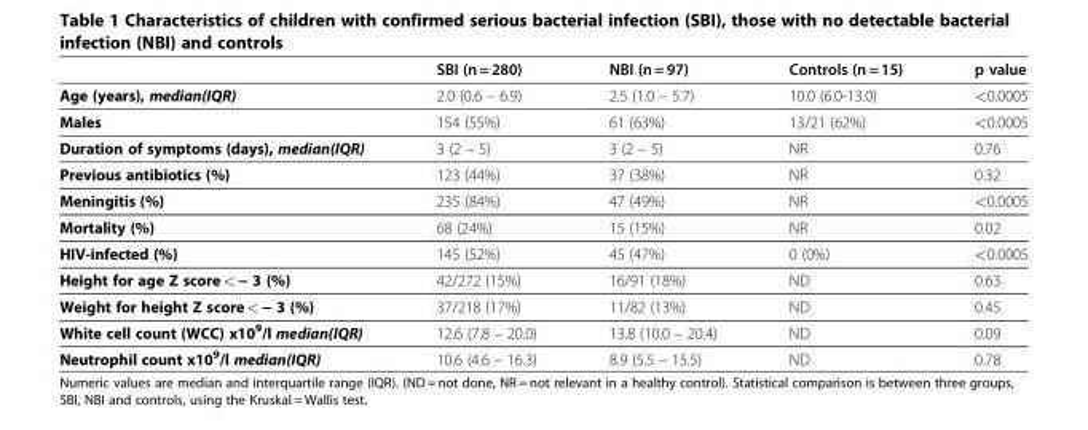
<table><thead><tr><td></td><td>SBI (n = 280)</td><td>NBI (n = 97)</td><td>Controls (n = 15)</td><td>p value</td></tr></thead><tbody><tr><td>Age (years), median(IQR)</td><td>2.0 (0.6 – 6.9)</td><td>2.5 (1.0 – 5.7)</td><td>10.0 (6.0-13.0)</td><td>&lt;0.0005</td></tr><tr><td>Males</td><td>154 (55%)</td><td>61 (63%)</td><td>13/21 (62%)</td><td>&lt;0.0005</td></tr><tr><td>Duration of symptoms (days), median(IQR)</td><td>3 (2 – 5)</td><td>3 (2 – 5)</td><td>NR</td><td>0.76</td></tr><tr><td>Previous antibiotics (%)</td><td>123 (44%)</td><td>37 (38%)</td><td>NR</td><td>0.32</td></tr><tr><td>Meningitis (%)</td><td>235 (84%)</td><td>47 (49%)</td><td>NR</td><td>&lt;0.0005</td></tr><tr><td>Mortality (%)</td><td>68 (24%)</td><td>15 (15%)</td><td>NR</td><td>0.02</td></tr><tr><td>HIV-infected (%)</td><td>145 (52%)</td><td>45 (47%)</td><td>0 (0%)</td><td>&lt;0.0005</td></tr><tr><td>Height for age Z score &lt; − 3 (%)</td><td>42/272 (15%)</td><td>16/91 (18%)</td><td>ND</td><td>0.63</td></tr><tr><td>Weight for height Z score &lt; − 3 (%)</td><td>37/218 (17%)</td><td>11/82 (13%)</td><td>ND</td><td>0.45</td></tr><tr><td>White cell count (WCC) x10<sup>9</sup>/l median(IQR)</td><td>12.6 (7.8 – 20.0)</td><td>13.8 (10.0 – 20.4)</td><td>ND</td><td>0.09</td></tr><tr><td>Neutrophil count x10<sup>9</sup>/l median(IQR)</td><td>10.6 (4.6 – 16.3)</td><td>8.9 (5.5 – 15.5)</td><td>ND</td><td>0.78</td></tr></tbody></table>